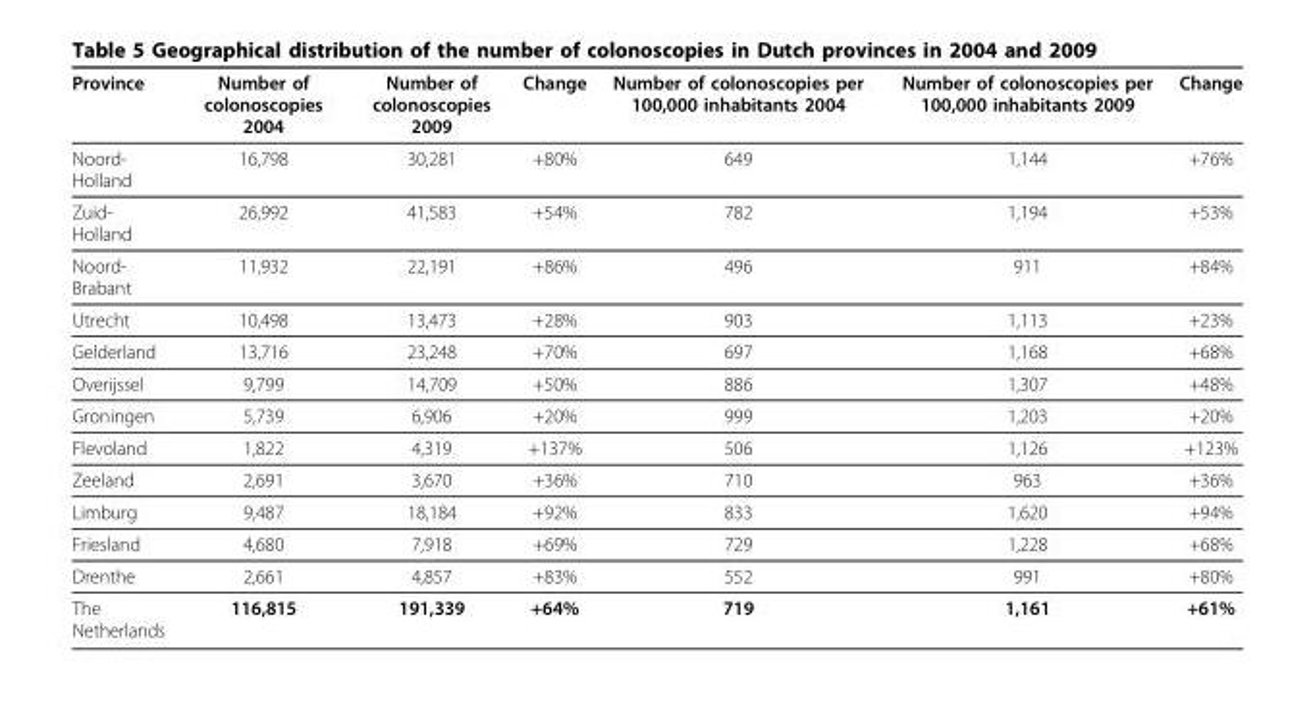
<table><thead><tr><td>Province</td><td>Number of colonoscopies 2004</td><td>Number of colonoscopies 2009</td><td>Change</td><td>Number of colonoscopies per 100,000 inhabitants 2004</td><td>Number of colonoscopies per 100,000 inhabitants 2009</td><td>Change</td></tr></thead><tbody><tr><td>Noord- Holland</td><td>16,798</td><td>30,281</td><td>+80%</td><td>649</td><td>1,144</td><td>+76%</td></tr><tr><td>Zuid- Holland</td><td>26,992</td><td>41,583</td><td>+54%</td><td>782</td><td>1,194</td><td>+53%</td></tr><tr><td>Noord- Brabant</td><td>11,932</td><td>22,191</td><td>+86%</td><td>496</td><td>911</td><td>+84%</td></tr><tr><td>Utrecht</td><td>10,498</td><td>13,473</td><td>+28%</td><td>903</td><td>1,113</td><td>+23%</td></tr><tr><td>Gelderland</td><td>13,716</td><td>23,248</td><td>+70%</td><td>697</td><td>1,168</td><td>+68%</td></tr><tr><td>Overijssel</td><td>9,799</td><td>14,709</td><td>+50%</td><td>886</td><td>1,307</td><td>+48%</td></tr><tr><td>Groningen</td><td>5,739</td><td>6,906</td><td>+20%</td><td>999</td><td>1,203</td><td>+20%</td></tr><tr><td>Flevoland</td><td>1,822</td><td>4,319</td><td>+137%</td><td>506</td><td>1,126</td><td>+123%</td></tr><tr><td>Zeeland</td><td>2,691</td><td>3,670</td><td>+36%</td><td>710</td><td>963</td><td>+36%</td></tr><tr><td>Limburg</td><td>9,487</td><td>18,184</td><td>+92%</td><td>833</td><td>1,620</td><td>+94%</td></tr><tr><td>Friesland</td><td>4,680</td><td>7,918</td><td>+69%</td><td>729</td><td>1,228</td><td>+68%</td></tr><tr><td>Drenthe</td><td>2,661</td><td>4,857</td><td>+83%</td><td>552</td><td>991</td><td>+80%</td></tr><tr><td>The Netherlands</td><td>116,815</td><td>191,339</td><td>+64%</td><td>719</td><td>1,161</td><td>+61%</td></tr></tbody></table>